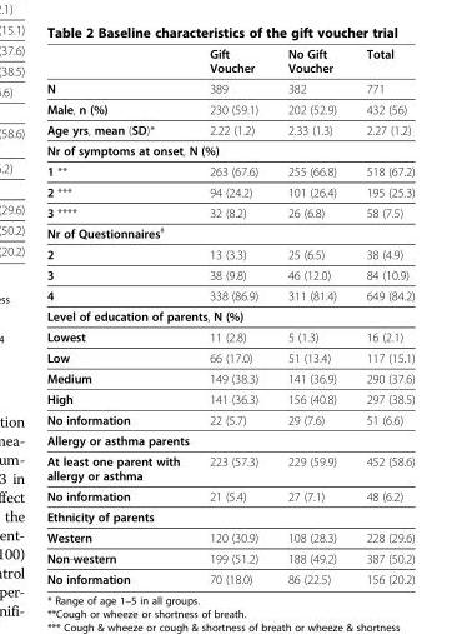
<table><thead><tr><td></td><td>Gift Voucher</td><td>No Gift Voucher</td><td>Total</td></tr></thead><tbody><tr><td>N</td><td>389</td><td>382</td><td>771</td></tr><tr><td>Male, n (%)</td><td>230 (59.1)</td><td>202 (52.9)</td><td>432 (56)</td></tr><tr><td>Age yrs, mean (SD)*</td><td>2.22 (1.2)</td><td>2.33 (1.3)</td><td>2.27 (1.2)</td></tr><tr><td colspan="4">Nr of symptoms at onset, N (%)</td></tr><tr><td>1 **</td><td>263 (67.6)</td><td>255 (66.8)</td><td>518 (67.2)</td></tr><tr><td>2 ***</td><td>94 (24.2)</td><td>101 (26.4)</td><td>195 (25.3)</td></tr><tr><td>3 ****</td><td>32 (8.2)</td><td>26 (6.8)</td><td>58 (7.5)</td></tr><tr><td colspan="4">Nr of Questionnaires<sup>#</sup></td></tr><tr><td>2</td><td>13 (3.3)</td><td>25 (6.5)</td><td>38 (4.9)</td></tr><tr><td>3</td><td>38 (9.8)</td><td>46 (12.0)</td><td>84 (10.9)</td></tr><tr><td>4</td><td>338 (86.9)</td><td>311 (81.4)</td><td>649 (84.2)</td></tr><tr><td colspan="4">Level of education of parents, N (%)</td></tr><tr><td>Lowest</td><td>11 (2.8)</td><td>5 (1.3)</td><td>16 (2.1)</td></tr><tr><td>Low</td><td>66 (17.0)</td><td>51 (13.4)</td><td>117 (15.1)</td></tr><tr><td>Medium</td><td>149 (38.3)</td><td>141 (36.9)</td><td>290 (37.6)</td></tr><tr><td>High</td><td>141 (36.3)</td><td>156 (40.8)</td><td>297 (38.5)</td></tr><tr><td>No information</td><td>22 (5.7)</td><td>29 (7.6)</td><td>51 (6.6)</td></tr><tr><td colspan="4">Allergy or asthma parents</td></tr><tr><td>At least one parent with allergy or asthma</td><td>223 (57.3)</td><td>229 (59.9)</td><td>452 (58.6)</td></tr><tr><td>No information</td><td>21 (5.4)</td><td>27 (7.1)</td><td>48 (6.2)</td></tr><tr><td colspan="4">Ethnicity of parents</td></tr><tr><td>Western</td><td>120 (30.9)</td><td>108 (28.3)</td><td>228 (29.6)</td></tr><tr><td>Non-western</td><td>199 (51.2)</td><td>188 (49.2)</td><td>387 (50.2)</td></tr><tr><td>No information</td><td>70 (18.0)</td><td>86 (22.5)</td><td>156 (20.2)</td></tr></tbody></table>